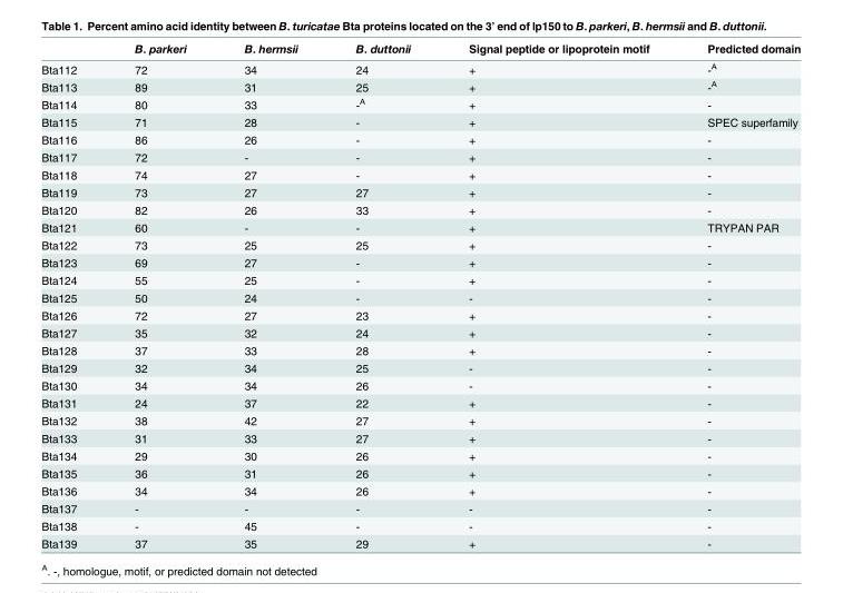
<table><thead><tr><td></td><td>B. parkeri</td><td>B. hermsii</td><td>B. duttonii</td><td>Signal peptide or lipoprotein motif</td><td>Predicted domain</td></tr></thead><tbody><tr><td>Bta112</td><td>72</td><td>34</td><td>24</td><td>+</td><td>-<sup>A</sup></td></tr><tr><td>Bta113</td><td>89</td><td>31</td><td>25</td><td>+</td><td>-<sup>A</sup></td></tr><tr><td>Bta114</td><td>80</td><td>33</td><td>-<sup>A</sup></td><td>+</td><td>-</td></tr><tr><td>Bta115</td><td>71</td><td>28</td><td>-</td><td>+</td><td>SPEC superfamily</td></tr><tr><td>Bta116</td><td>86</td><td>26</td><td>-</td><td>+</td><td>-</td></tr><tr><td>Bta117</td><td>72</td><td>-</td><td>-</td><td>+</td><td>-</td></tr><tr><td>Bta118</td><td>74</td><td>27</td><td>-</td><td>+</td><td>-</td></tr><tr><td>Bta119</td><td>73</td><td>27</td><td>27</td><td>+</td><td>-</td></tr><tr><td>Bta120</td><td>82</td><td>26</td><td>33</td><td>+</td><td>-</td></tr><tr><td>Bta121</td><td>60</td><td>-</td><td>-</td><td>+</td><td>TRYPAN PAR</td></tr><tr><td>Bta122</td><td>73</td><td>25</td><td>25</td><td>+</td><td>-</td></tr><tr><td>Bta123</td><td>69</td><td>27</td><td>-</td><td>+</td><td>-</td></tr><tr><td>Bta124</td><td>55</td><td>25</td><td>-</td><td>+</td><td>-</td></tr><tr><td>Bta125</td><td>50</td><td>24</td><td>-</td><td>-</td><td>-</td></tr><tr><td>Bta126</td><td>72</td><td>27</td><td>23</td><td>+</td><td>-</td></tr><tr><td>Bta127</td><td>35</td><td>32</td><td>24</td><td>+</td><td>-</td></tr><tr><td>Bta128</td><td>37</td><td>33</td><td>28</td><td>+</td><td>-</td></tr><tr><td>Bta129</td><td>32</td><td>34</td><td>25</td><td>-</td><td>-</td></tr><tr><td>Bta130</td><td>34</td><td>34</td><td>26</td><td>-</td><td>-</td></tr><tr><td>Bta131</td><td>24</td><td>37</td><td>22</td><td>+</td><td>-</td></tr><tr><td>Bta132</td><td>38</td><td>42</td><td>27</td><td>+</td><td>-</td></tr><tr><td>Bta133</td><td>31</td><td>33</td><td>27</td><td>+</td><td>-</td></tr><tr><td>Bta134</td><td>29</td><td>30</td><td>26</td><td>+</td><td>-</td></tr><tr><td>Bta135</td><td>36</td><td>31</td><td>26</td><td>+</td><td>-</td></tr><tr><td>Bta136</td><td>34</td><td>34</td><td>26</td><td>+</td><td>-</td></tr><tr><td>Bta137</td><td>-</td><td>-</td><td>-</td><td>-</td><td>-</td></tr><tr><td>Bta138</td><td>-</td><td>45</td><td>-</td><td>-</td><td>-</td></tr><tr><td>Bta139</td><td>37</td><td>35</td><td>29</td><td>+</td><td>-</td></tr></tbody></table>